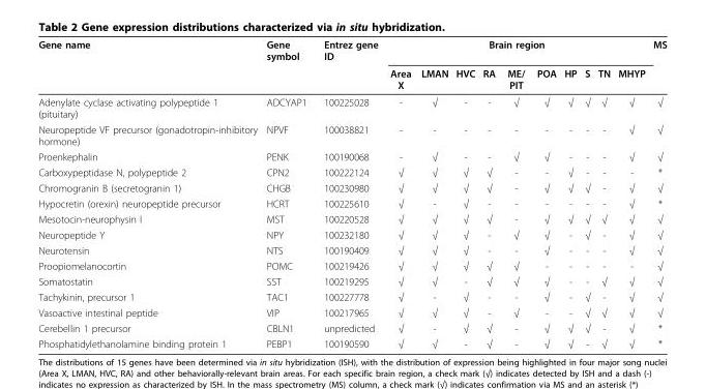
<table><thead><tr><td rowspan="2">Gene name</td><td rowspan="2">Gene symbol</td><td rowspan="2">Entrez gene ID</td><td colspan="10">Brain region</td><td rowspan="2">MS</td></tr><tr><td>Area X</td><td>LMAN</td><td>HVC</td><td>RA</td><td>ME/ PIT</td><td>POA</td><td>HP</td><td>S</td><td>TN</td><td>MHYP</td></tr></thead><tbody><tr><td>Adenylate cyclase activating polypeptide 1 (pituitary)</td><td>ADCYAP1</td><td>100225028</td><td>-</td><td>√</td><td>-</td><td>-</td><td>√</td><td>√</td><td>√</td><td>√</td><td>√</td><td>√</td><td>√</td></tr><tr><td>Neuropeptide VF precursor (gonadotropin-inhibitory hormone)</td><td>NPVF</td><td>100038821</td><td>-</td><td>-</td><td>-</td><td>-</td><td>-</td><td>-</td><td>-</td><td>-</td><td>-</td><td>√</td><td>√</td></tr><tr><td>Proenkephalin</td><td>PENK</td><td>100190068</td><td>-</td><td>√</td><td>-</td><td>-</td><td>√</td><td>√</td><td>-</td><td>-</td><td>-</td><td>√</td><td>√</td></tr><tr><td>Carboxypeptidase N, polypeptide 2</td><td>CPN2</td><td>100222124</td><td>√</td><td>√</td><td>√</td><td>√</td><td>-</td><td>-</td><td>√</td><td>-</td><td>-</td><td>-</td><td>*</td></tr><tr><td>Chromogranin B (secretogranin 1)</td><td>CHGB</td><td>100230980</td><td>√</td><td>√</td><td>√</td><td>√</td><td>-</td><td>√</td><td>√</td><td>√</td><td>-</td><td>√</td><td>√</td></tr><tr><td>Hypocretin (orexin) neuropeptide precursor</td><td>HCRT</td><td>100225610</td><td>√</td><td>-</td><td>√</td><td>-</td><td>-</td><td>-</td><td>-</td><td>-</td><td>-</td><td>√</td><td>*</td></tr><tr><td>Mesotocin-neurophysin I</td><td>MST</td><td>100220528</td><td>√</td><td>√</td><td>√</td><td>√</td><td>-</td><td>√</td><td>√</td><td>√</td><td>√</td><td>√</td><td>√</td></tr><tr><td>Neuropeptide Y</td><td>NPY</td><td>100232180</td><td>√</td><td>√</td><td>√</td><td>-</td><td>√</td><td>√</td><td>-</td><td>√</td><td>-</td><td>√</td><td>√</td></tr><tr><td>Neurotensin</td><td>NTS</td><td>100190409</td><td>√</td><td>√</td><td>√</td><td>-</td><td>-</td><td>√</td><td>-</td><td>-</td><td>-</td><td>√</td><td>√</td></tr><tr><td>Proopiomelanocortin</td><td>POMC</td><td>100219426</td><td>√</td><td>√</td><td>√</td><td>√</td><td>√</td><td>-</td><td>-</td><td>-</td><td>-</td><td>-</td><td>√</td></tr><tr><td>Somatostatin</td><td>SST</td><td>100219295</td><td>√</td><td>√</td><td>-</td><td>√</td><td>√</td><td>√</td><td>-</td><td>-</td><td>√</td><td>√</td><td>√</td></tr><tr><td>Tachykinin, precursor 1</td><td>TAC1</td><td>100227778</td><td>√</td><td>-</td><td>√</td><td>-</td><td>-</td><td>√</td><td>-</td><td>√</td><td>-</td><td>√</td><td>√</td></tr><tr><td>Vasoactive intestinal peptide</td><td>VIP</td><td>100217965</td><td>√</td><td>√</td><td>√</td><td>-</td><td>√</td><td>-</td><td>-</td><td>√</td><td>√</td><td>√</td><td>√</td></tr><tr><td>Cerebellin 1 precursor</td><td>CBLN1</td><td>unpredicted</td><td>√</td><td>-</td><td>√</td><td>√</td><td>-</td><td>√</td><td>√</td><td>√</td><td>-</td><td>√</td><td>*</td></tr><tr><td>Phosphatidylethanolamine binding protein 1</td><td>PEBP1</td><td>100190590</td><td>√</td><td>√</td><td>-</td><td>√</td><td>-</td><td>√</td><td>√</td><td>-</td><td>√</td><td>√</td><td>*</td></tr></tbody></table>